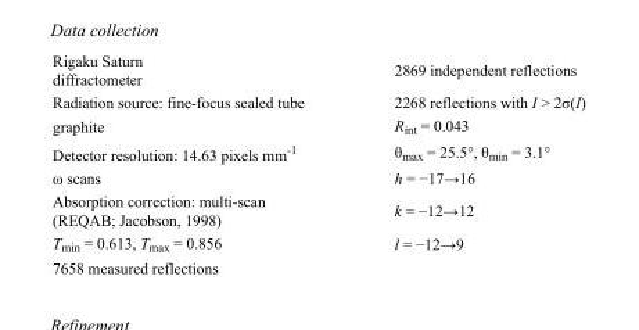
<table><tbody><tr><td>Rigaku Saturn diffractometer</td><td>2869 independent reflections</td></tr><tr><td>Radiation source: fine-focus sealed tube</td><td>2268 reflections with I &gt; 2σ(I)</td></tr><tr><td>graphite</td><td>R<sub>int</sub> = 0.043</td></tr><tr><td>Detector resolution: 14.63 pixels mm<sup>-1</sup></td><td>θ<sub>max</sub> = 25.5°, θ<sub>min</sub> = 3.1°</td></tr><tr><td>ω scans</td><td>h = −17→16</td></tr><tr><td>Absorption correction: multi-scan (REQAB; Jacobson, 1998)</td><td>k = −12→12</td></tr><tr><td>T<sub>min</sub> = 0.613, T<sub>max</sub> = 0.856</td><td>l = −12→9</td></tr><tr><td>7658 measured reflections</td><td></td></tr></tbody></table>